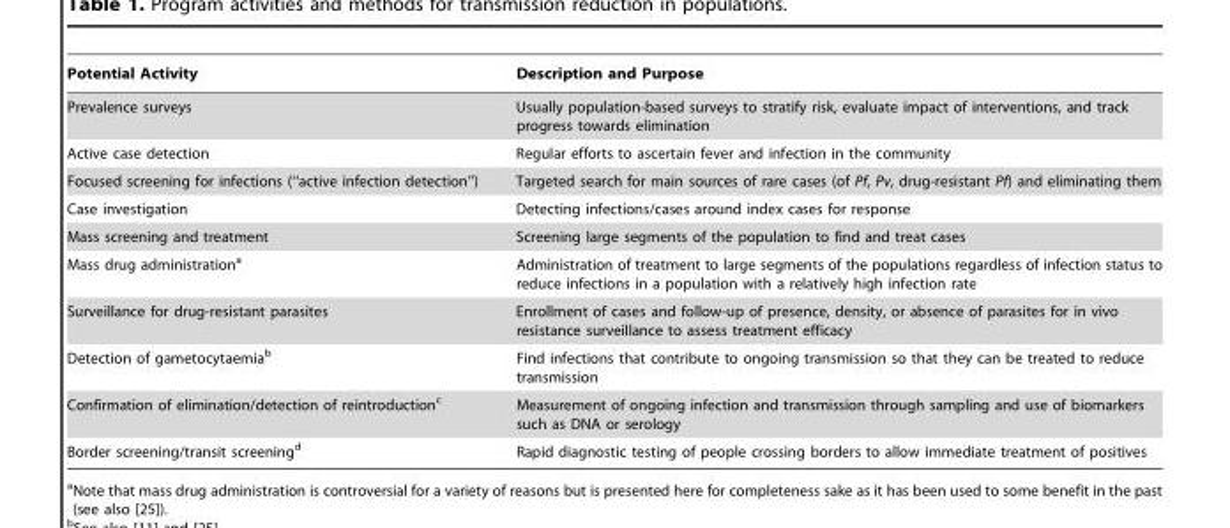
<table><thead><tr><td>Potential Activity</td><td>Description and Purpose</td></tr></thead><tbody><tr><td>Prevalence surveys</td><td>Usually population-based surveys to stratify risk, evaluate impact of interventions, and track progress towards elimination</td></tr><tr><td>Active case detection</td><td>Regular efforts to ascertain fever and infection in the community</td></tr><tr><td>Focused screening for infections (‘‘active infection detection’’)</td><td>Targeted search for main sources of rare cases (of Pf, Pv, drug-resistant Pf) and eliminating them</td></tr><tr><td>Case investigation</td><td>Detecting infections/cases around index cases for response</td></tr><tr><td>Mass screening and treatment</td><td>Screening large segments of the population to find and treat cases</td></tr><tr><td>Mass drug administration<sup>a</sup></td><td>Administration of treatment to large segments of the populations regardless of infection status to reduce infections in a population with a relatively high infection rate</td></tr><tr><td>Surveillance for drug-resistant parasites</td><td>Enrollment of cases and follow-up of presence, density, or absence of parasites for in vivo resistance surveillance to assess treatment efficacy</td></tr><tr><td>Detection of gametocytaemia<sup>b</sup></td><td>Find infections that contribute to ongoing transmission so that they can be treated to reduce transmission</td></tr><tr><td>Confirmation of elimination/detection of reintroduction<sup>c</sup></td><td>Measurement of ongoing infection and transmission through sampling and use of biomarkers such as DNA or serology</td></tr><tr><td>Border screening/transit screening<sup>d</sup></td><td>Rapid diagnostic testing of people crossing borders to allow immediate treatment of positives</td></tr></tbody></table>